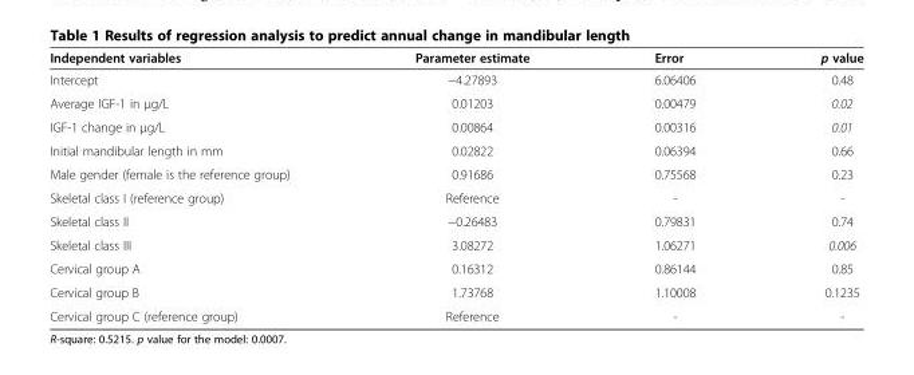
<table><thead><tr><td>Independent variables</td><td>Parameter estimate</td><td>Error</td><td>p value</td></tr></thead><tbody><tr><td>Intercept</td><td>−4.27893</td><td>6.06406</td><td>0.48</td></tr><tr><td>Average IGF-1 in μg/L</td><td>0.01203</td><td>0.00479</td><td>0.02</td></tr><tr><td>IGF-1 change in μg/L</td><td>0.00864</td><td>0.00316</td><td>0.01</td></tr><tr><td>Initial mandibular length in mm</td><td>0.02822</td><td>0.06394</td><td>0.66</td></tr><tr><td>Male gender (female is the reference group)</td><td>0.91686</td><td>0.75568</td><td>0.23</td></tr><tr><td>Skeletal class I (reference group)</td><td>Reference</td><td>-</td><td>-</td></tr><tr><td>Skeletal class II</td><td>−0.26483</td><td>0.79831</td><td>0.74</td></tr><tr><td>Skeletal class III</td><td>3.08272</td><td>1.06271</td><td>0.006</td></tr><tr><td>Cervical group A</td><td>0.16312</td><td>0.86144</td><td>0.85</td></tr><tr><td>Cervical group B</td><td>1.73768</td><td>1.10008</td><td>0.1235</td></tr><tr><td>Cervical group C (reference group)</td><td>Reference</td><td>-</td><td>-</td></tr></tbody></table>